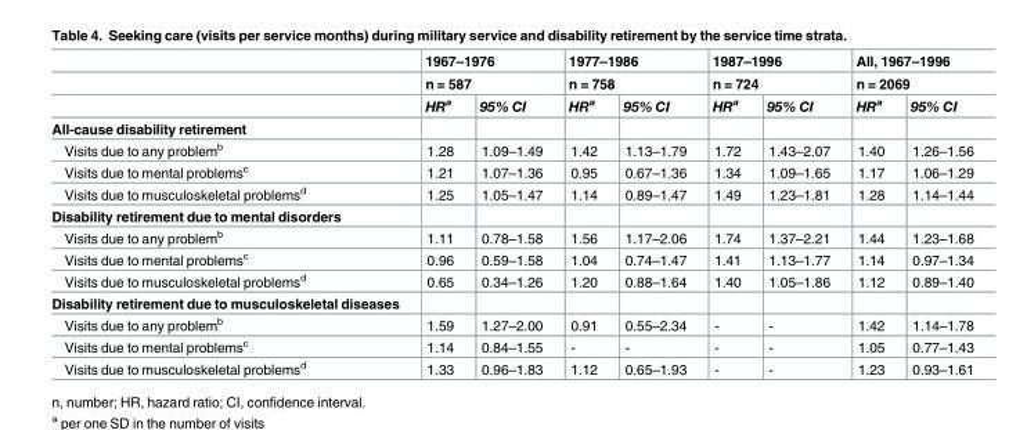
<table><thead><tr><td rowspan="3"></td><td rowspan="2" colspan="2">1967–1976 n = 587</td><td rowspan="2" colspan="2">1977–1986 n = 758</td><td rowspan="2" colspan="2">1987–1996 n = 724</td><td rowspan="2" colspan="2">All, 1967–1996 n = 2069</td></tr><tr></tr><tr><td>HR<sup>a</sup></td><td>95% CI</td><td>HR<sup>a</sup></td><td>95% CI</td><td>HR<sup>a</sup></td><td>95% CI</td><td>HR<sup>a</sup></td><td>95% CI</td></tr></thead><tbody><tr><td colspan="9">All-cause disability retirement</td></tr><tr><td>Visits due to any problem<sup>b</sup></td><td>1.28</td><td>1.09–1.49</td><td>1.42</td><td>1.13–1.79</td><td>1.72</td><td>1.43–2.07</td><td>1.40</td><td>1.26–1.56</td></tr><tr><td>Visits due to mental problems<sup>c</sup></td><td>1.21</td><td>1.07–1.36</td><td>0.95</td><td>0.67–1.36</td><td>1.34</td><td>1.09–1.65</td><td>1.17</td><td>1.06–1.29</td></tr><tr><td>Visits due to musculoskeletal problems<sup>d</sup></td><td>1.25</td><td>1.05–1.47</td><td>1.14</td><td>0.89–1.47</td><td>1.49</td><td>1.23–1.81</td><td>1.28</td><td>1.14–1.44</td></tr><tr><td colspan="9">Disability retirement due to mental disorders</td></tr><tr><td>Visits due to any problem<sup>b</sup></td><td>1.11</td><td>0.78–1.58</td><td>1.56</td><td>1.17–2.06</td><td>1.74</td><td>1.37–2.21</td><td>1.44</td><td>1.23–1.68</td></tr><tr><td>Visits due to mental problems<sup>c</sup></td><td>0.96</td><td>0.59–1.58</td><td>1.04</td><td>0.74–1.47</td><td>1.41</td><td>1.13–1.77</td><td>1.14</td><td>0.97–1.34</td></tr><tr><td>Visits due to musculoskeletal problems<sup>d</sup></td><td>0.65</td><td>0.34–1.26</td><td>1.20</td><td>0.88–1.64</td><td>1.40</td><td>1.05–1.86</td><td>1.12</td><td>0.89–1.40</td></tr><tr><td colspan="9">Disability retirement due to musculoskeletal diseases</td></tr><tr><td>Visits due to any problem<sup>b</sup></td><td>1.59</td><td>1.27–2.00</td><td>0.91</td><td>0.55–2.34</td><td>-</td><td>-</td><td>1.42</td><td>1.14–1.78</td></tr><tr><td>Visits due to mental problems<sup>c</sup></td><td>1.14</td><td>0.84–1.55</td><td>-</td><td>-</td><td>-</td><td>-</td><td>1.05</td><td>0.77–1.43</td></tr><tr><td>Visits due to musculoskeletal problems<sup>d</sup></td><td>1.33</td><td>0.96–1.83</td><td>1.12</td><td>0.65–1.93</td><td>-</td><td>-</td><td>1.23</td><td>0.93–1.61</td></tr></tbody></table>